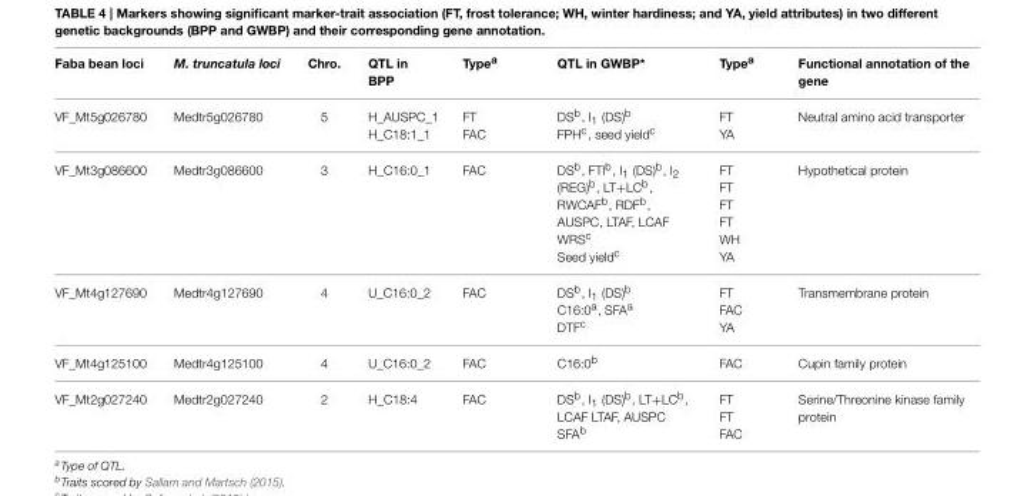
<table><thead><tr><td>Faba bean loci</td><td>M. truncatula loci</td><td>Chro.</td><td>QTL in BPP</td><td>Type<sup>a</sup></td><td>QTL in GWBP*</td><td>Type<sup>a</sup></td><td>Functional annotation of the gene</td></tr></thead><tbody><tr><td>VF_Mt5g026780</td><td>Medtr5g026780</td><td>5</td><td>H_AUSPC_1 H_C18:1_1</td><td>FT FAC</td><td>DS<sup>b</sup>, I<sub>1</sub> (DS)<sup>b</sup> FPHc, seed yieldc</td><td>FT YA</td><td>Neutral amino acid transporter</td></tr><tr><td>VF_Mt3g086600</td><td>Medtr3g086600</td><td>3</td><td>H_C16:0_1</td><td>FAC</td><td>DSb, FTIb, I<sub>1</sub> (DS)b, I<sub>2</sub> (REG)<sup>b</sup>, LT+LC<sup>b</sup>, RWCAF<sup>b</sup>, RDF<sup>b</sup>, AUSPC, LTAF, LCAF WRS<sup>c</sup> Seed yield<sup>c</sup></td><td>FT FT FT FT WH YA</td><td>Hypothetical protein</td></tr><tr><td>VF_Mt4g127690</td><td>Medtr4g127690</td><td>4</td><td>U_C16:0_2</td><td>FAC</td><td>DS<sup>b</sup>, I<sub>1</sub> (DS)<sup>b</sup> C16:0<sup>a</sup>, SFA<sup>a</sup> DTF<sup>c</sup></td><td>FT FAC YA</td><td>Transmembrane protein</td></tr><tr><td>VF_Mt4g125100</td><td>Medtr4g125100</td><td>4</td><td>U_C16:0_2</td><td>FAC</td><td>C16:0<sup>b</sup></td><td>FAC</td><td>Cupin family protein</td></tr><tr><td>VF_Mt2g027240</td><td>Medtr2g027240</td><td>2</td><td>H_C18:4</td><td>FAC</td><td>DS<sup>b</sup>, I<sub>1</sub> (DS)<sup>b</sup>, LT+LC<sup>b</sup>, LCAF LTAF, AUSPC SFA<sup>b</sup></td><td>FT FT FAC</td><td>Serine/Threonine kinase family protein</td></tr></tbody></table>